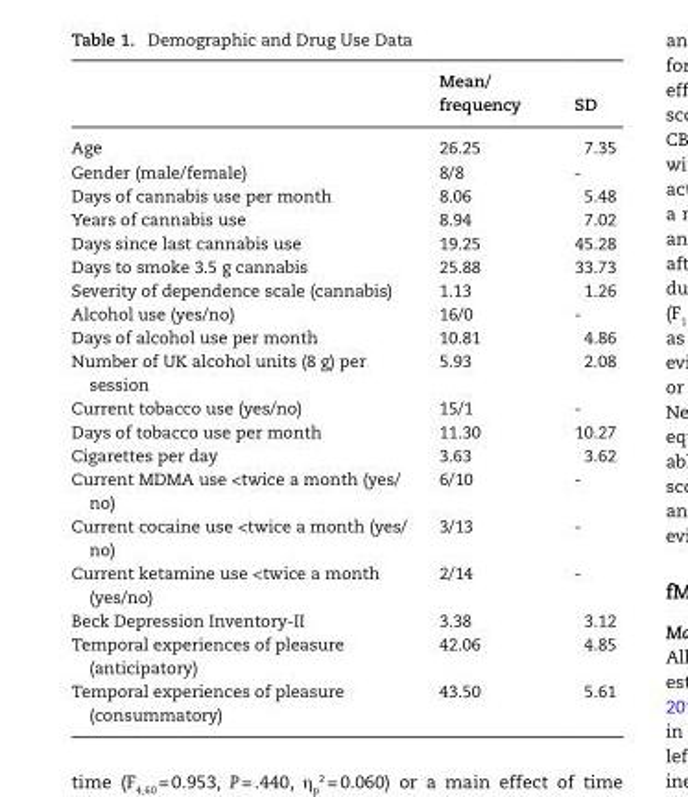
<table><thead><tr><td></td><td>Mean/ frequency</td><td>SD</td></tr></thead><tbody><tr><td>Age</td><td>26.25</td><td>7.35</td></tr><tr><td>Gender (male/female)</td><td>8/8</td><td>-</td></tr><tr><td>Days of cannabis use per month</td><td>8.06</td><td>5.48</td></tr><tr><td>Years of cannabis use</td><td>8.94</td><td>7.02</td></tr><tr><td>Days since last cannabis use</td><td>19.25</td><td>45.28</td></tr><tr><td>Days to smoke 3.5 g cannabis</td><td>25.88</td><td>33.73</td></tr><tr><td>Severity of dependence scale (cannabis)</td><td>1.13</td><td>1.26</td></tr><tr><td>Alcohol use (yes/no)</td><td>16/0</td><td>-</td></tr><tr><td>Days of alcohol use per month</td><td>10.81</td><td>4.86</td></tr><tr><td>Number of UK alcohol units (8 g) per session</td><td>5.93</td><td>2.08</td></tr><tr><td>Current tobacco use (yes/no)</td><td>15/1</td><td>-</td></tr><tr><td>Days of tobacco use per month</td><td>11.30</td><td>10.27</td></tr><tr><td>Cigarettes per day</td><td>3.63</td><td>3.62</td></tr><tr><td>Current MDMA use &lt;twice a month (yes/ no)</td><td>6/10</td><td>-</td></tr><tr><td>Current cocaine use &lt;twice a month (yes/ no)</td><td>3/13</td><td>-</td></tr><tr><td>Current ketamine use &lt;twice a month (yes/no)</td><td>2/14</td><td>-</td></tr><tr><td>Beck Depression Inventory-II</td><td>3.38</td><td>3.12</td></tr><tr><td>Temporal experiences of pleasure (anticipatory)</td><td>42.06</td><td>4.85</td></tr><tr><td>Temporal experiences of pleasure (consummatory)</td><td>43.50</td><td>5.61</td></tr></tbody></table>